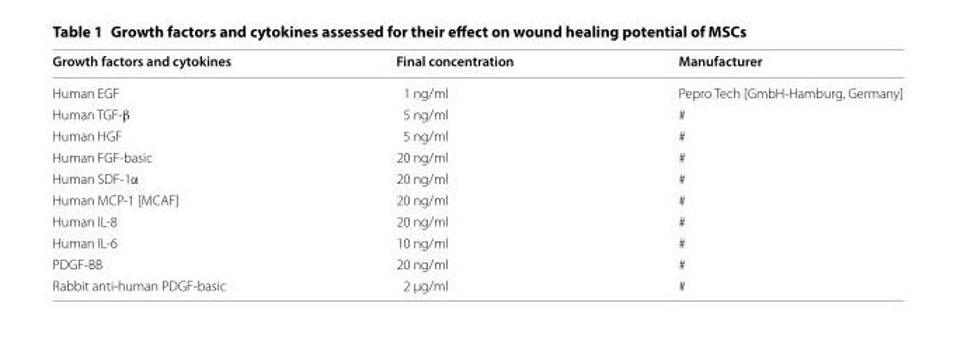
<table><thead><tr><td>Growth factors and cytokines</td><td>Final concentration</td><td>Manufacturer</td></tr></thead><tbody><tr><td>Human EGF</td><td>1 ng/ml</td><td>Pepro Tech [GmbH‑Hamburg, Germany]</td></tr><tr><td>Human TGF‑β</td><td>5 ng/ml</td><td>#</td></tr><tr><td>Human HGF</td><td>5 ng/ml</td><td>#</td></tr><tr><td>Human FGF‑basic</td><td>20 ng/ml</td><td>#</td></tr><tr><td>Human SDF‑1α</td><td>20 ng/ml</td><td>#</td></tr><tr><td>Human MCP‑1 [MCAF]</td><td>20 ng/ml</td><td>#</td></tr><tr><td>Human IL‑8</td><td>20 ng/ml</td><td>#</td></tr><tr><td>Human IL‑6</td><td>10 ng/ml</td><td>#</td></tr><tr><td>PDGF‑BB</td><td>20 ng/ml</td><td>#</td></tr><tr><td>Rabbit anti‑human PDGF‑basic</td><td>2 µg/ml</td><td>#</td></tr></tbody></table>